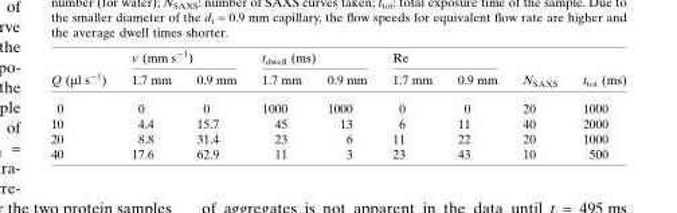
<table><thead><tr><td rowspan="2">Q (µl s<sup>−1</sup>)</td><td colspan="2">v (mm s<sup>−1</sup>)</td><td colspan="2">t<sub>dwell</sub> (ms)</td><td colspan="2">Re</td><td rowspan="2">N<sub>SAXS</sub></td><td rowspan="2">t<sub>tot</sub> (ms)</td></tr><tr><td>1.7 mm</td><td>0.9 mm</td><td>1.7 mm</td><td>0.9 mm</td><td>1.7 mm</td><td>0.9 mm</td></tr></thead><tbody><tr><td>0</td><td>0</td><td>0</td><td>1000</td><td>1000</td><td>0</td><td>0</td><td>20</td><td>1000</td></tr><tr><td>10</td><td>4.4</td><td>15.7</td><td>45</td><td>13</td><td>6</td><td>11</td><td>40</td><td>2000</td></tr><tr><td>20</td><td>8.8</td><td>31.4</td><td>23</td><td>6</td><td>11</td><td>22</td><td>20</td><td>1000</td></tr><tr><td>40</td><td>17.6</td><td>62.9</td><td>11</td><td>3</td><td>23</td><td>43</td><td>10</td><td>500</td></tr></tbody></table>